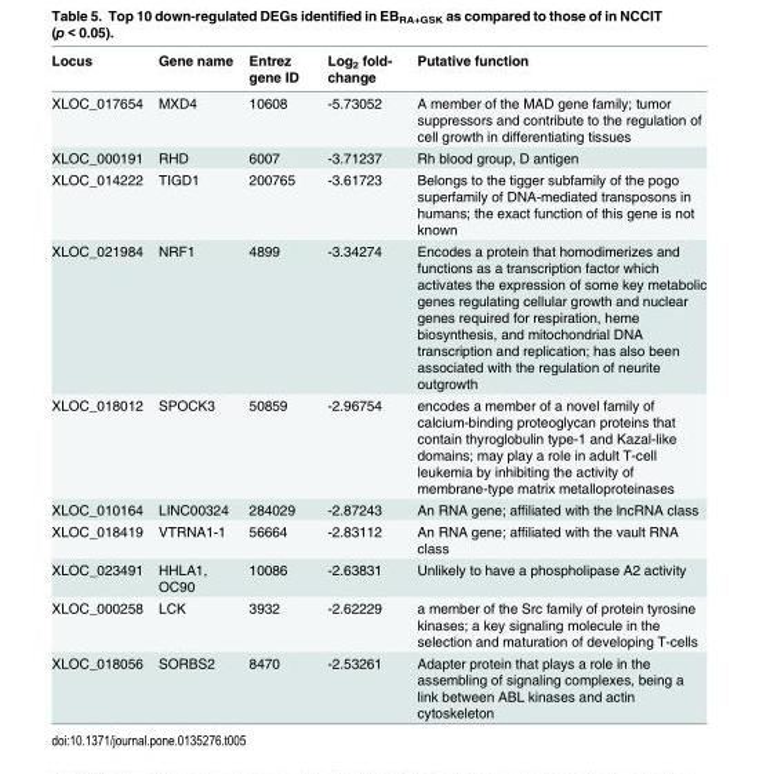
<table><thead><tr><td>Locus</td><td>Gene name</td><td>Entrez gene ID</td><td>Log<sub>2</sub> fold- change</td><td>Putative function</td></tr></thead><tbody><tr><td>XLOC_017654</td><td>MXD4</td><td>10608</td><td>-5.73052</td><td>A member of the MAD gene family; tumor suppressors and contribute to the regulation of cell growth in differentiating tissues</td></tr><tr><td>XLOC_000191</td><td>RHD</td><td>6007</td><td>-3.71237</td><td>Rh blood group, D antigen</td></tr><tr><td>XLOC_014222</td><td>TIGD1</td><td>200765</td><td>-3.61723</td><td>Belongs to the tigger subfamily of the pogo superfamily of DNA-mediated transposons in humans; the exact function of this gene is not known</td></tr><tr><td>XLOC_021984</td><td>NRF1</td><td>4899</td><td>-3.34274</td><td>Encodes a protein that homodimerizes and functions as a transcription factor which activates the expression of some key metabolic genes regulating cellular growth and nuclear genes required for respiration, heme biosynthesis, and mitochondrial DNA transcription and replication; has also been associated with the regulation of neurite outgrowth</td></tr><tr><td>XLOC_018012</td><td>SPOCK3</td><td>50859</td><td>-2.96754</td><td>encodes a member of a novel family of calcium-binding proteoglycan proteins that contain thyroglobulin type-1 and Kazal-like domains; may play a role in adult T-cell leukemia by inhibiting the activity of membrane-type matrix metalloproteinases</td></tr><tr><td>XLOC_010164</td><td>LINC00324</td><td>284029</td><td>-2.87243</td><td>An RNA gene; affiliated with the lncRNA class</td></tr><tr><td>XLOC_018419</td><td>VTRNA1-1</td><td>56664</td><td>-2.83112</td><td>An RNA gene; affiliated with the vault RNA class</td></tr><tr><td>XLOC_023491</td><td>HHLA1, OC90</td><td>10086</td><td>-2.63831</td><td>Unlikely to have a phospholipase A2 activity</td></tr><tr><td>XLOC_000258</td><td>LCK</td><td>3932</td><td>-2.62229</td><td>a member of the Src family of protein tyrosine kinases; a key signaling molecule in the selection and maturation of developing T-cells</td></tr><tr><td>XLOC_018056</td><td>SORBS2</td><td>8470</td><td>-2.53261</td><td>Adapter protein that plays a role in the assembling of signaling complexes, being a link between ABL kinases and actin cytoskeleton</td></tr></tbody></table>